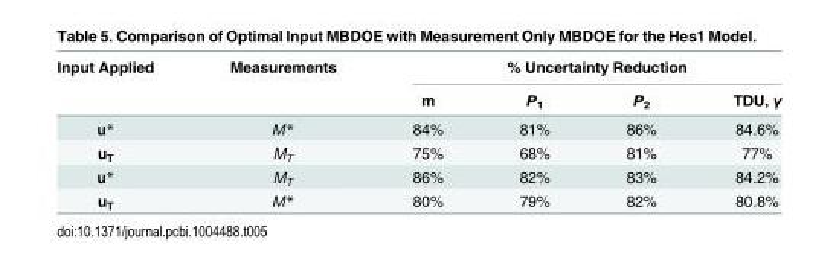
<table><thead><tr><td rowspan="2">Input Applied</td><td rowspan="2">Measurements</td><td colspan="4">% Uncertainty Reduction</td></tr><tr><td>m</td><td>P<sub>1</sub></td><td>P<sub>2</sub></td><td>TDU, γ</td></tr></thead><tbody><tr><td>u*</td><td>M*</td><td>84%</td><td>81%</td><td>86%</td><td>84.6%</td></tr><tr><td>u<sub>T</sub></td><td>M<sub>T</sub></td><td>75%</td><td>68%</td><td>81%</td><td>77%</td></tr><tr><td>u*</td><td>M<sub>T</sub></td><td>86%</td><td>82%</td><td>83%</td><td>84.2%</td></tr><tr><td>u<sub>T</sub></td><td>M*</td><td>80%</td><td>79%</td><td>82%</td><td>80.8%</td></tr></tbody></table>